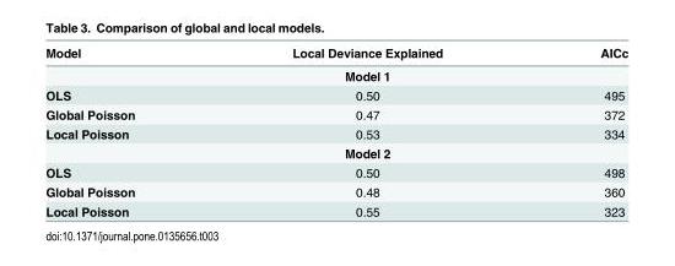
<table><thead><tr><td>Model</td><td>Local Deviance Explained</td><td>AICc</td></tr></thead><tbody><tr><td></td><td>Model 1</td><td></td></tr><tr><td>OLS</td><td>0.50</td><td>495</td></tr><tr><td>Global Poisson</td><td>0.47</td><td>372</td></tr><tr><td rowspan="2">Local Poisson</td><td>0.53</td><td>334</td></tr><tr><td>Model 2</td><td></td></tr><tr><td>OLS</td><td>0.50</td><td>498</td></tr><tr><td>Global Poisson</td><td>0.48</td><td>360</td></tr><tr><td>Local Poisson</td><td>0.55</td><td>323</td></tr></tbody></table>